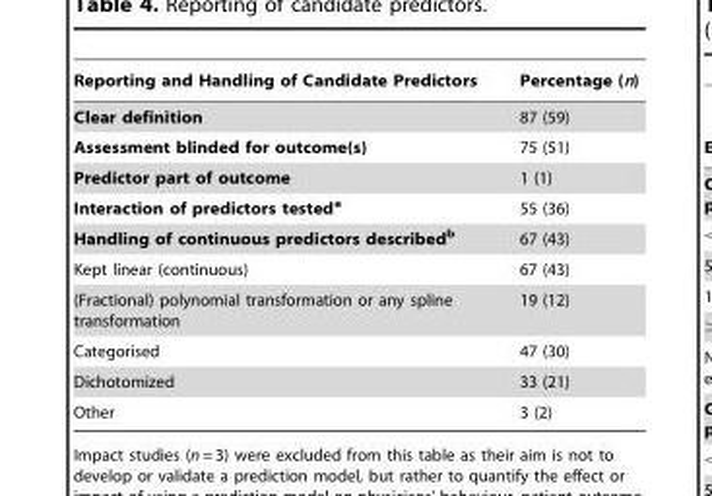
<table><thead><tr><td>Reporting and Handling of Candidate Predictors</td><td>Percentage (n)</td></tr></thead><tbody><tr><td>Clear definition</td><td>87 (59)</td></tr><tr><td>Assessment blinded for outcome(s)</td><td>75 (51)</td></tr><tr><td>Predictor part of outcome</td><td>1 (1)</td></tr><tr><td>Interaction of predictors testeda</td><td>55 (36)</td></tr><tr><td>Handling of continuous predictors describedb</td><td>67 (43)</td></tr><tr><td>Kept linear (continuous)</td><td>67 (43)</td></tr><tr><td>(Fractional) polynomial transformation or any spline transformation</td><td>19 (12)</td></tr><tr><td>Categorised</td><td>47 (30)</td></tr><tr><td>Dichotomized</td><td>33 (21)</td></tr><tr><td>Other</td><td>3 (2)</td></tr></tbody></table>